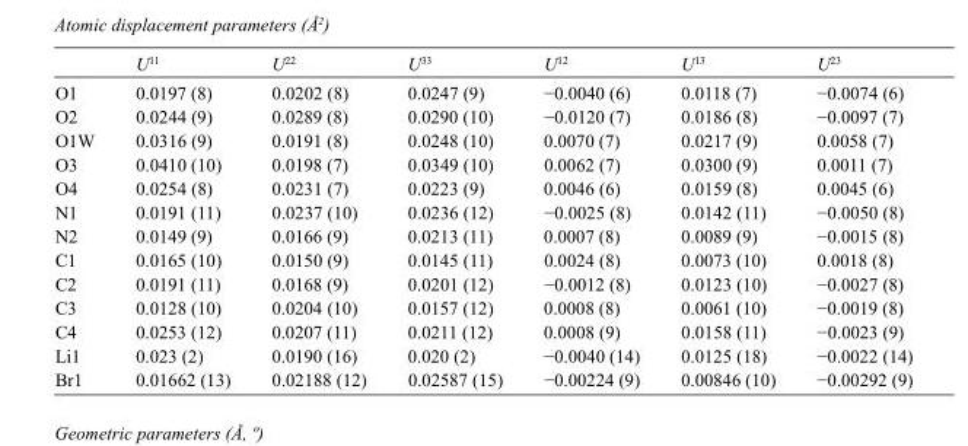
<table><thead><tr><td></td><td>U<sup>11</sup></td><td>U<sup>22</sup></td><td>U<sup>33</sup></td><td>U<sup>12</sup></td><td>U<sup>13</sup></td><td>U<sup>23</sup></td></tr></thead><tbody><tr><td>O1</td><td>0.0197 (8)</td><td>0.0202 (8)</td><td>0.0247 (9)</td><td>−0.0040 (6)</td><td>0.0118 (7)</td><td>−0.0074 (6)</td></tr><tr><td>O2</td><td>0.0244 (9)</td><td>0.0289 (8)</td><td>0.0290 (10)</td><td>−0.0120 (7)</td><td>0.0186 (8)</td><td>−0.0097 (7)</td></tr><tr><td>O1W</td><td>0.0316 (9)</td><td>0.0191 (8)</td><td>0.0248 (10)</td><td>0.0070 (7)</td><td>0.0217 (9)</td><td>0.0058 (7)</td></tr><tr><td>O3</td><td>0.0410 (10)</td><td>0.0198 (7)</td><td>0.0349 (10)</td><td>0.0062 (7)</td><td>0.0300 (9)</td><td>0.0011 (7)</td></tr><tr><td>O4</td><td>0.0254 (8)</td><td>0.0231 (7)</td><td>0.0223 (9)</td><td>0.0046 (6)</td><td>0.0159 (8)</td><td>0.0045 (6)</td></tr><tr><td>N1</td><td>0.0191 (11)</td><td>0.0237 (10)</td><td>0.0236 (12)</td><td>−0.0025 (8)</td><td>0.0142 (11)</td><td>−0.0050 (8)</td></tr><tr><td>N2</td><td>0.0149 (9)</td><td>0.0166 (9)</td><td>0.0213 (11)</td><td>0.0007 (8)</td><td>0.0089 (9)</td><td>−0.0015 (8)</td></tr><tr><td>C1</td><td>0.0165 (10)</td><td>0.0150 (9)</td><td>0.0145 (11)</td><td>0.0024 (8)</td><td>0.0073 (10)</td><td>0.0018 (8)</td></tr><tr><td>C2</td><td>0.0191 (11)</td><td>0.0168 (9)</td><td>0.0201 (12)</td><td>−0.0012 (8)</td><td>0.0123 (10)</td><td>−0.0027 (8)</td></tr><tr><td>C3</td><td>0.0128 (10)</td><td>0.0204 (10)</td><td>0.0157 (12)</td><td>0.0008 (8)</td><td>0.0061 (10)</td><td>−0.0019 (8)</td></tr><tr><td>C4</td><td>0.0253 (12)</td><td>0.0207 (11)</td><td>0.0211 (12)</td><td>0.0008 (9)</td><td>0.0158 (11)</td><td>−0.0023 (9)</td></tr><tr><td>Li1</td><td>0.023 (2)</td><td>0.0190 (16)</td><td>0.020 (2)</td><td>−0.0040 (14)</td><td>0.0125 (18)</td><td>−0.0022 (14)</td></tr><tr><td>Br1</td><td>0.01662 (13)</td><td>0.02188 (12)</td><td>0.02587 (15)</td><td>−0.00224 (9)</td><td>0.00846 (10)</td><td>−0.00292 (9)</td></tr></tbody></table>